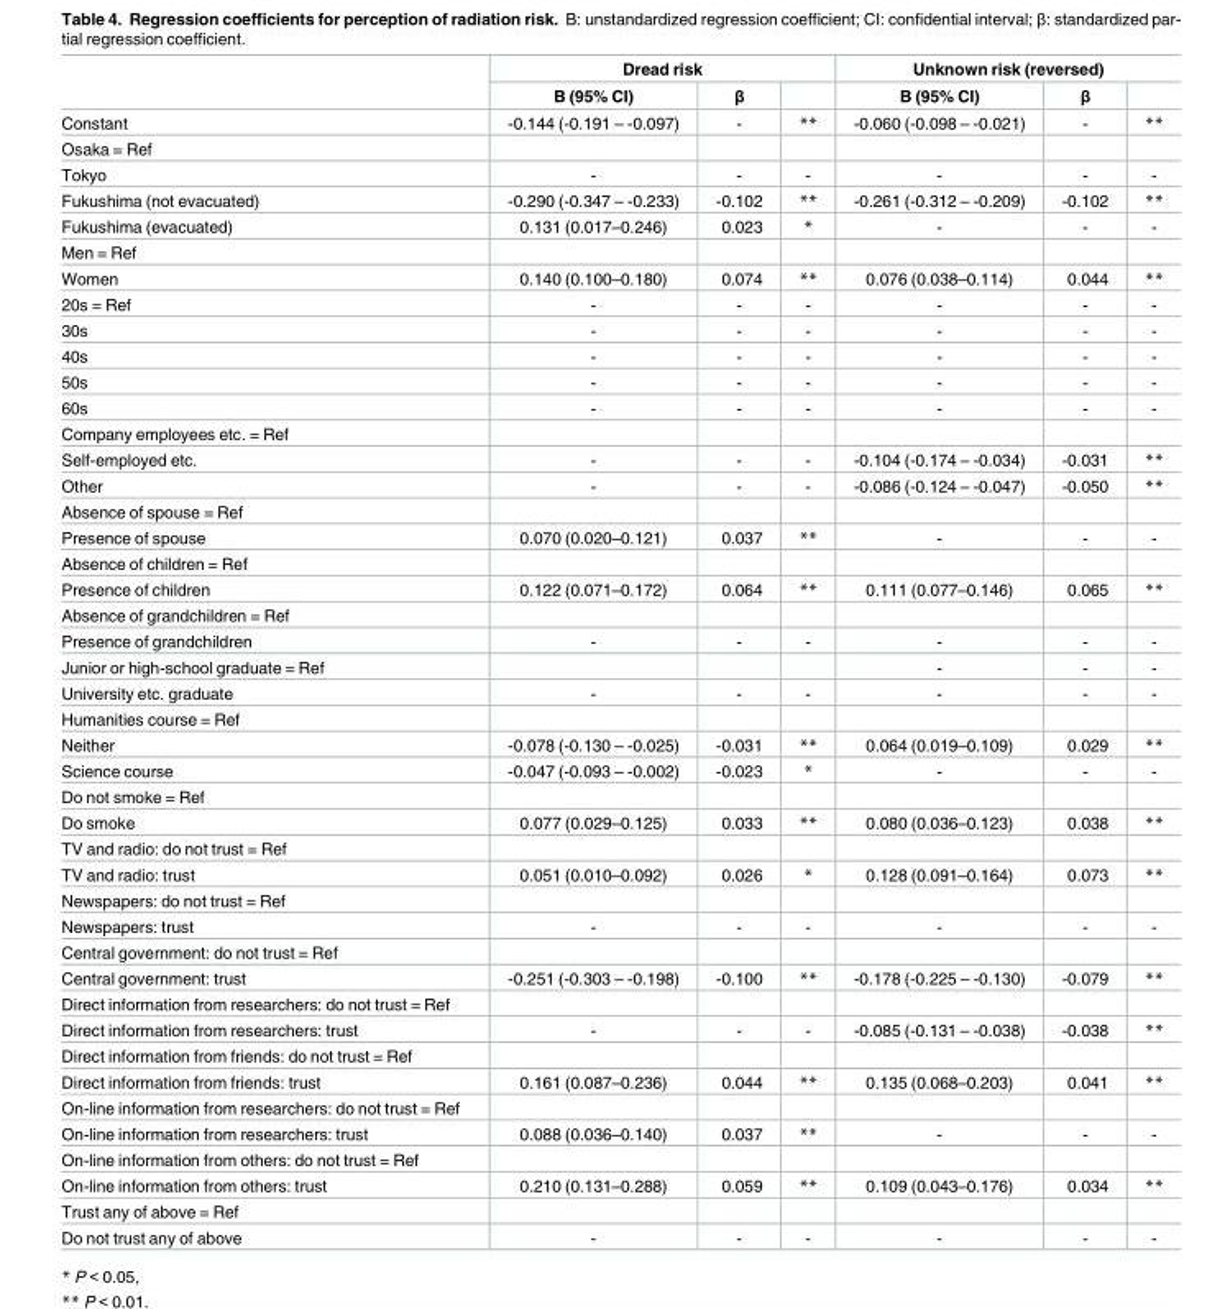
<table><thead><tr><td rowspan="2"></td><td colspan="3">Dread risk</td><td colspan="3">Unknown risk (reversed)</td></tr><tr><td>B (95% CI)</td><td>β</td><td></td><td>B (95% CI)</td><td>β</td><td></td></tr></thead><tbody><tr><td>Constant</td><td>-0.144 (-0.191 – -0.097)</td><td>-</td><td>**</td><td>-0.060 (-0.098 – -0.021)</td><td>-</td><td>**</td></tr><tr><td colspan="7">Osaka = Ref</td></tr><tr><td>Tokyo</td><td>-</td><td>-</td><td>-</td><td>-</td><td>-</td><td>-</td></tr><tr><td>Fukushima (not evacuated)</td><td>-0.290 (-0.347 – -0.233)</td><td>-0.102</td><td>**</td><td>-0.261 (-0.312 – -0.209)</td><td>-0.102</td><td>**</td></tr><tr><td>Fukushima (evacuated)</td><td>0.131 (0.017–0.246)</td><td>0.023</td><td>*</td><td>-</td><td>-</td><td>-</td></tr><tr><td colspan="7">Men = Ref</td></tr><tr><td>Women</td><td>0.140 (0.100–0.180)</td><td>0.074</td><td>**</td><td>0.076 (0.038–0.114)</td><td>0.044</td><td>**</td></tr><tr><td>20s = Ref</td><td>-</td><td>-</td><td>-</td><td>-</td><td>-</td><td>-</td></tr><tr><td>30s</td><td>-</td><td>-</td><td>-</td><td>-</td><td>-</td><td>-</td></tr><tr><td>40s</td><td>-</td><td>-</td><td>-</td><td>-</td><td>-</td><td>-</td></tr><tr><td>50s</td><td>-</td><td>-</td><td>-</td><td>-</td><td>-</td><td>-</td></tr><tr><td>60s</td><td>-</td><td>-</td><td>-</td><td>-</td><td>-</td><td>-</td></tr><tr><td colspan="7">Company employees etc. = Ref</td></tr><tr><td>Self-employed etc.</td><td>-</td><td>-</td><td>-</td><td>-0.104 (-0.174 – -0.034)</td><td>-0.031</td><td>**</td></tr><tr><td>Other</td><td>-</td><td>-</td><td>-</td><td>-0.086 (-0.124 – -0.047)</td><td>-0.050</td><td>**</td></tr><tr><td colspan="7">Absence of spouse = Ref</td></tr><tr><td>Presence of spouse</td><td>0.070 (0.020–0.121)</td><td>0.037</td><td>**</td><td>-</td><td>-</td><td>-</td></tr><tr><td colspan="7">Absence of children = Ref</td></tr><tr><td>Presence of children</td><td>0.122 (0.071–0.172)</td><td>0.064</td><td>**</td><td>0.111 (0.077–0.146)</td><td>0.065</td><td>**</td></tr><tr><td colspan="7">Absence of grandchildren = Ref</td></tr><tr><td>Presence of grandchildren</td><td>-</td><td>-</td><td>-</td><td>-</td><td>-</td><td>-</td></tr><tr><td>Junior or high-school graduate = Ref</td><td></td><td></td><td></td><td>-</td><td>-</td><td>-</td></tr><tr><td>University etc. graduate</td><td>-</td><td>-</td><td>-</td><td>-</td><td>-</td><td>-</td></tr><tr><td colspan="7">Humanities course = Ref</td></tr><tr><td>Neither</td><td>-0.078 (-0.130 – -0.025)</td><td>-0.031</td><td>**</td><td>0.064 (0.019–0.109)</td><td>0.029</td><td>**</td></tr><tr><td>Science course</td><td>-0.047 (-0.093 – -0.002)</td><td>-0.023</td><td>*</td><td>-</td><td>-</td><td>-</td></tr><tr><td colspan="7">Do not smoke = Ref</td></tr><tr><td>Do smoke</td><td>0.077 (0.029–0.125)</td><td>0.033</td><td>**</td><td>0.080 (0.036–0.123)</td><td>0.038</td><td>**</td></tr><tr><td colspan="7">TV and radio: do not trust = Ref</td></tr><tr><td>TV and radio: trust</td><td>0.051 (0.010–0.092)</td><td>0.026</td><td>*</td><td>0.128 (0.091–0.164)</td><td>0.073</td><td>**</td></tr><tr><td colspan="7">Newspapers: do not trust = Ref</td></tr><tr><td>Newspapers: trust</td><td>-</td><td>-</td><td>-</td><td>-</td><td>-</td><td>-</td></tr><tr><td colspan="7">Central government: do not trust = Ref</td></tr><tr><td>Central government: trust</td><td>-0.251 (-0.303 – -0.198)</td><td>-0.100</td><td>**</td><td>-0.178 (-0.225 – -0.130)</td><td>-0.079</td><td>**</td></tr><tr><td colspan="7">Direct information from researchers: do not trust = Ref</td></tr><tr><td>Direct information from researchers: trust</td><td>-</td><td>-</td><td>-</td><td>-0.085 (-0.131 – -0.038)</td><td>-0.038</td><td>**</td></tr><tr><td colspan="7">Direct information from friends: do not trust = Ref</td></tr><tr><td>Direct information from friends: trust</td><td>0.161 (0.087–0.236)</td><td>0.044</td><td>**</td><td>0.135 (0.068–0.203)</td><td>0.041</td><td>**</td></tr><tr><td colspan="7">On-line information from researchers: do not trust = Ref</td></tr><tr><td>On-line information from researchers: trust</td><td>0.088 (0.036–0.140)</td><td>0.037</td><td>**</td><td>-</td><td>-</td><td>-</td></tr><tr><td colspan="7">On-line information from others: do not trust = Ref</td></tr><tr><td>On-line information from others: trust</td><td>0.210 (0.131–0.288)</td><td>0.059</td><td>**</td><td>0.109 (0.043–0.176)</td><td>0.034</td><td>**</td></tr><tr><td colspan="7">Trust any of above = Ref</td></tr><tr><td>Do not trust any of above</td><td>-</td><td>-</td><td>-</td><td>-</td><td>-</td><td>-</td></tr></tbody></table>